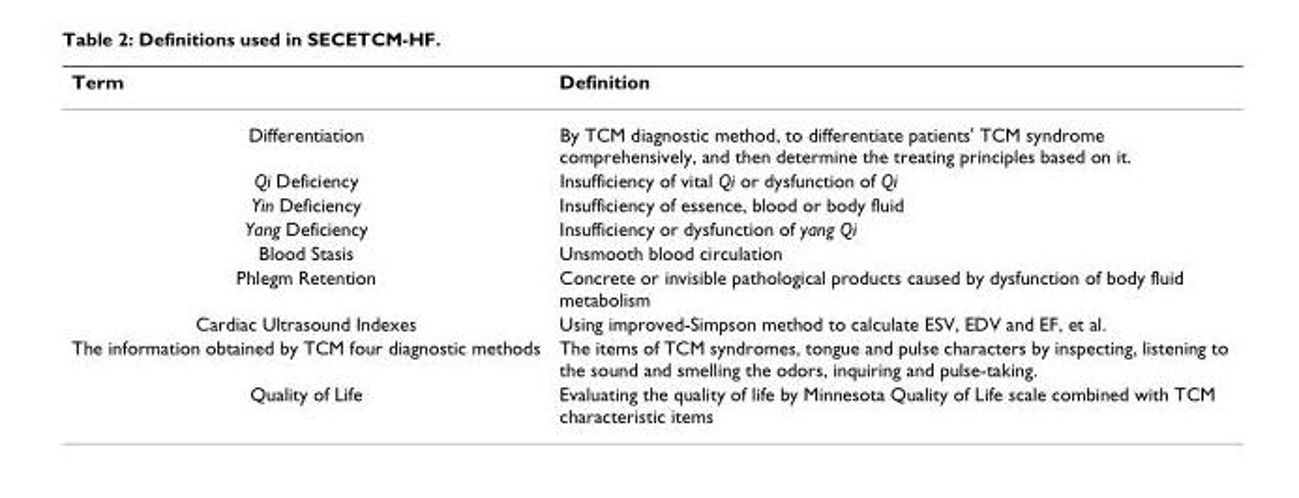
<table><thead><tr><td>Term</td><td>Definition</td></tr></thead><tbody><tr><td>Differentiation</td><td>By TCM diagnostic method, to differentiate patients&#x27; TCM syndrome comprehensively, and then determine the treating principles based on it.</td></tr><tr><td>Qi Deficiency</td><td>Insufficiency of vital Qi or dysfunction of Qi</td></tr><tr><td>Yin Deficiency</td><td>Insufficiency of essence, blood or body fluid</td></tr><tr><td>Yang Deficiency</td><td>Insufficiency or dysfunction of yang Qi</td></tr><tr><td>Blood Stasis</td><td>Unsmooth blood circulation</td></tr><tr><td>Phlegm Retention</td><td>Concrete or invisible pathological products caused by dysfunction of body fluid metabolism</td></tr><tr><td>Cardiac Ultrasound Indexes</td><td>Using improved-Simpson method to calculate ESV, EDV and EF, et al.</td></tr><tr><td>The information obtained by TCM four diagnostic methods</td><td>The items of TCM syndromes, tongue and pulse characters by inspecting, listening to the sound and smelling the odors, inquiring and pulse-taking.</td></tr><tr><td>Quality of Life</td><td>Evaluating the quality of life by Minnesota Quality of Life scale combined with TCM characteristic items</td></tr></tbody></table>